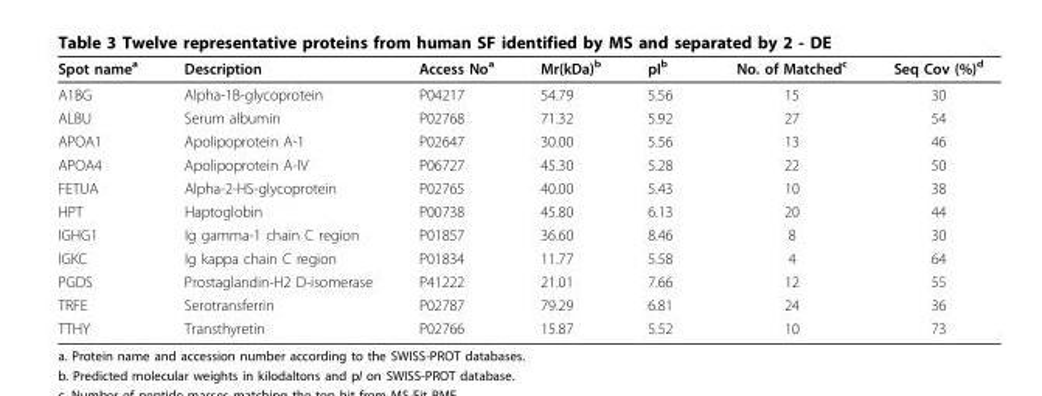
<table><thead><tr><td>Spot name<sup>a</sup></td><td>Description</td><td>Access No<sup>a</sup></td><td>Mr(kDa)<sup>b</sup></td><td>pI<sup>b</sup></td><td>No. of Matched<sup>c</sup></td><td>Seq Cov (%)<sup>d</sup></td></tr></thead><tbody><tr><td>A1BG</td><td>Alpha-1B-glycoprotein</td><td>P04217</td><td>54.79</td><td>5.56</td><td>15</td><td>30</td></tr><tr><td>ALBU</td><td>Serum albumin</td><td>P02768</td><td>71.32</td><td>5.92</td><td>27</td><td>54</td></tr><tr><td>APOA1</td><td>Apolipoprotein A-1</td><td>P02647</td><td>30.00</td><td>5.56</td><td>13</td><td>46</td></tr><tr><td>APOA4</td><td>Apolipoprotein A-IV</td><td>P06727</td><td>45.30</td><td>5.28</td><td>22</td><td>50</td></tr><tr><td>FETUA</td><td>Alpha-2-HS-glycoprotein</td><td>P02765</td><td>40.00</td><td>5.43</td><td>10</td><td>38</td></tr><tr><td>HPT</td><td>Haptoglobin</td><td>P00738</td><td>45.80</td><td>6.13</td><td>20</td><td>44</td></tr><tr><td>IGHG1</td><td>Ig gamma-1 chain C region</td><td>P01857</td><td>36.60</td><td>8.46</td><td>8</td><td>30</td></tr><tr><td>IGKC</td><td>Ig kappa chain C region</td><td>P01834</td><td>11.77</td><td>5.58</td><td>4</td><td>64</td></tr><tr><td>PGDS</td><td>Prostaglandin-H2 D-isomerase</td><td>P41222</td><td>21.01</td><td>7.66</td><td>12</td><td>55</td></tr><tr><td>TRFE</td><td>Serotransferrin</td><td>P02787</td><td>79.29</td><td>6.81</td><td>24</td><td>36</td></tr><tr><td>TTHY</td><td>Transthyretin</td><td>P02766</td><td>15.87</td><td>5.52</td><td>10</td><td>73</td></tr></tbody></table>